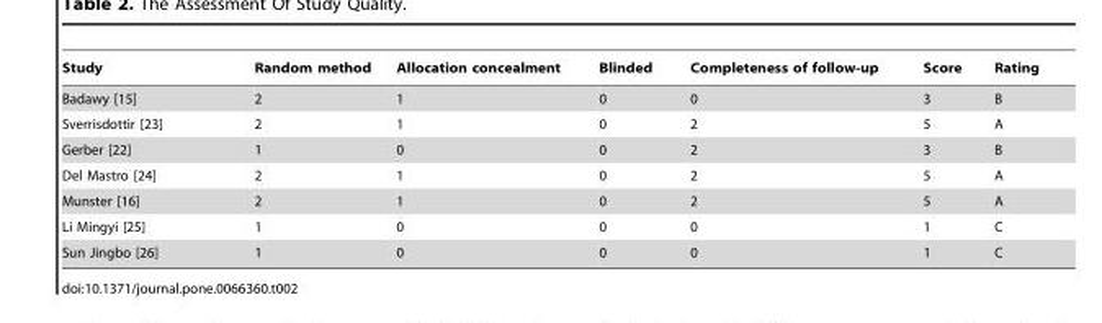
<table><thead><tr><td>Study</td><td>Random method</td><td>Allocation concealment</td><td>Blinded</td><td>Completeness of follow-up</td><td>Score</td><td>Rating</td></tr></thead><tbody><tr><td>Badawy [15]</td><td>2</td><td>1</td><td>0</td><td>0</td><td>3</td><td>B</td></tr><tr><td>Sverrisdottir [23]</td><td>2</td><td>1</td><td>0</td><td>2</td><td>5</td><td>A</td></tr><tr><td>Gerber [22]</td><td>1</td><td>0</td><td>0</td><td>2</td><td>3</td><td>B</td></tr><tr><td>Del Mastro [24]</td><td>2</td><td>1</td><td>0</td><td>2</td><td>5</td><td>A</td></tr><tr><td>Munster [16]</td><td>2</td><td>1</td><td>0</td><td>2</td><td>5</td><td>A</td></tr><tr><td>Li Mingyi [25]</td><td>1</td><td>0</td><td>0</td><td>0</td><td>1</td><td>C</td></tr><tr><td>Sun Jingbo [26]</td><td>1</td><td>0</td><td>0</td><td>0</td><td>1</td><td>C</td></tr></tbody></table>